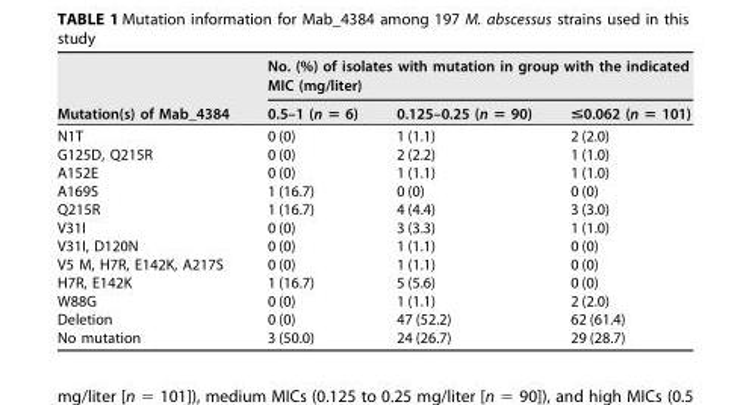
<table><thead><tr><td rowspan="2">Mutation(s) of Mab_4384</td><td colspan="3">No. (%) of isolates with mutation in group with the indicated MIC (mg/liter)</td></tr><tr><td>0.5–1 (n = 6)</td><td>0.125–0.25 (n = 90)</td><td>&lt;0.062 (n � 101)</td></tr></thead><tbody><tr><td>N1T</td><td>0 (0)</td><td>1 (1.1)</td><td>2 (2.0)</td></tr><tr><td>G125D, Q215R</td><td>0 (0)</td><td>2 (2.2)</td><td>1 (1.0)</td></tr><tr><td>A152E</td><td>0 (0)</td><td>1 (1.1)</td><td>1 (1.0)</td></tr><tr><td>A169S</td><td>1 (16.7)</td><td>0 (0)</td><td>0 (0)</td></tr><tr><td>Q215R</td><td>1 (16.7)</td><td>4 (4.4)</td><td>3 (3.0)</td></tr><tr><td>V31I</td><td>0 (0)</td><td>3 (3.3)</td><td>1 (1.0)</td></tr><tr><td>V31I, D120N</td><td>0 (0)</td><td>1 (1.1)</td><td>0 (0)</td></tr><tr><td>V5 M, H7R, E142K, A217S</td><td>0 (0)</td><td>1 (1.1)</td><td>0 (0)</td></tr><tr><td>H7R, E142K</td><td>1 (16.7)</td><td>5 (5.6)</td><td>0 (0)</td></tr><tr><td>W88G</td><td>0 (0)</td><td>1 (1.1)</td><td>2 (2.0)</td></tr><tr><td>Deletion</td><td>0 (0)</td><td>47 (52.2)</td><td>62 (61.4)</td></tr><tr><td>No mutation</td><td>3 (50.0)</td><td>24 (26.7)</td><td>29 (28.7)</td></tr></tbody></table>